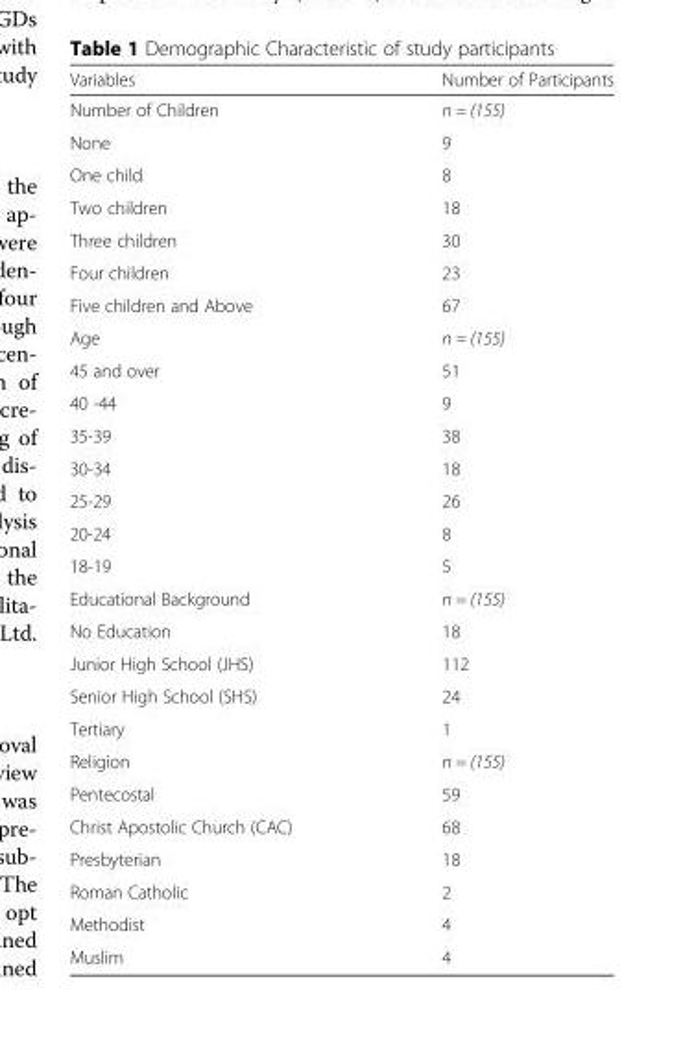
<table><thead><tr><td>Variables</td><td>Number of Participants</td></tr></thead><tbody><tr><td>Number of Children</td><td>n = (155)</td></tr><tr><td>None</td><td>9</td></tr><tr><td>One child</td><td>8</td></tr><tr><td>Two children</td><td>18</td></tr><tr><td>Three children</td><td>30</td></tr><tr><td>Four children</td><td>23</td></tr><tr><td>Five children and Above</td><td>67</td></tr><tr><td>Age</td><td>n = (155)</td></tr><tr><td>45 and over</td><td>51</td></tr><tr><td>40 -44</td><td>9</td></tr><tr><td>35-39</td><td>38</td></tr><tr><td>30-34</td><td>18</td></tr><tr><td>25-29</td><td>26</td></tr><tr><td>20-24</td><td>8</td></tr><tr><td>18-19</td><td>5</td></tr><tr><td>Educational Background</td><td>n = (155)</td></tr><tr><td>No Education</td><td>18</td></tr><tr><td>Junior High School (JHS)</td><td>112</td></tr><tr><td>Senior High School (SHS)</td><td>24</td></tr><tr><td>Tertiary</td><td>1</td></tr><tr><td>Religion</td><td>n = (155)</td></tr><tr><td>Pentecostal</td><td>59</td></tr><tr><td>Christ Apostolic Church (CAC)</td><td>68</td></tr><tr><td>Presbyterian</td><td>18</td></tr><tr><td>Roman Catholic</td><td>2</td></tr><tr><td>Methodist</td><td>4</td></tr><tr><td>Muslim</td><td>4</td></tr></tbody></table>